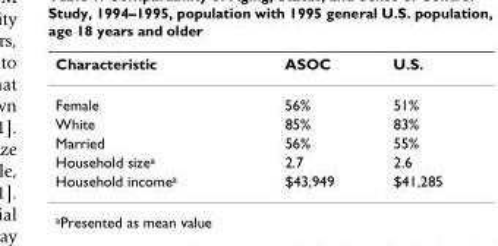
<table><thead><tr><td>Characteristic</td><td>ASOC</td><td>U.S.</td></tr></thead><tbody><tr><td>Female</td><td>56%</td><td>51%</td></tr><tr><td>White</td><td>85%</td><td>83%</td></tr><tr><td>Married</td><td>56%</td><td>55%</td></tr><tr><td>Household size<sup>a</sup></td><td>2.7</td><td>2.6</td></tr><tr><td>Household income<sup>a</sup></td><td>$43,949</td><td>$41,285</td></tr></tbody></table>